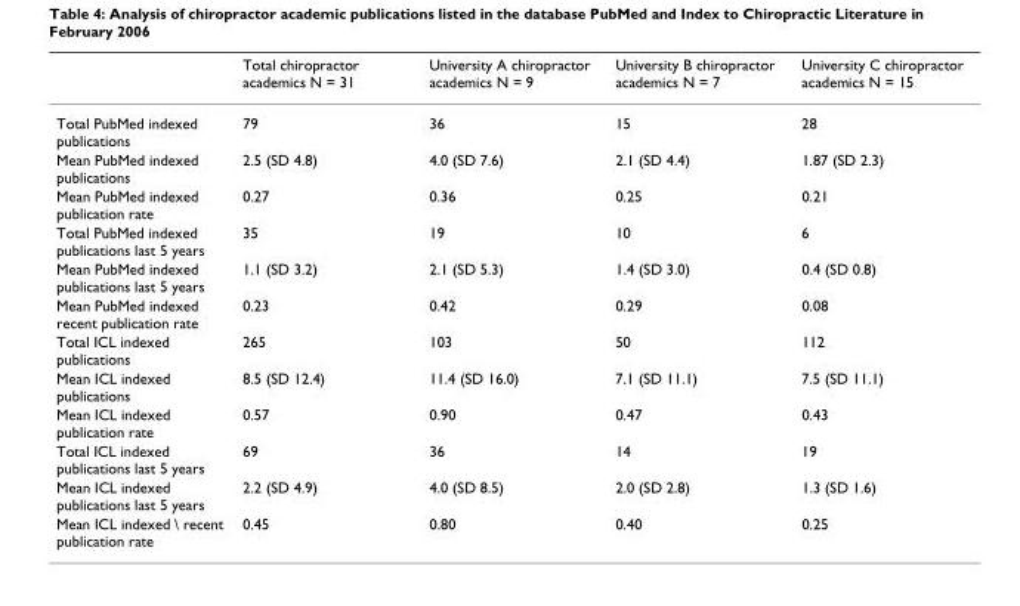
<table><thead><tr><td></td><td>Total chiropractor academics N = 31</td><td>University A chiropractor academics N = 9</td><td>University B chiropractor academics N = 7</td><td>University C chiropractor academics N = 15</td></tr></thead><tbody><tr><td>Total PubMed indexed publications</td><td>79</td><td>36</td><td>15</td><td>28</td></tr><tr><td>Mean PubMed indexed publications</td><td>2.5 (SD 4.8)</td><td>4.0 (SD 7.6)</td><td>2.1 (SD 4.4)</td><td>1.87 (SD 2.3)</td></tr><tr><td>Mean PubMed indexed publication rate</td><td>0.27</td><td>0.36</td><td>0.25</td><td>0.21</td></tr><tr><td>Total PubMed indexed publications last 5 years</td><td>35</td><td>19</td><td>10</td><td>6</td></tr><tr><td>Mean PubMed indexed publications last 5 years</td><td>1.1 (SD 3.2)</td><td>2.1 (SD 5.3)</td><td>1.4 (SD 3.0)</td><td>0.4 (SD 0.8)</td></tr><tr><td>Mean PubMed indexed recent publication rate</td><td>0.23</td><td>0.42</td><td>0.29</td><td>0.08</td></tr><tr><td>Total ICL indexed publications</td><td>265</td><td>103</td><td>50</td><td>112</td></tr><tr><td>Mean ICL indexed publications</td><td>8.5 (SD 12.4)</td><td>11.4 (SD 16.0)</td><td>7.1 (SD 11.1)</td><td>7.5 (SD 11.1)</td></tr><tr><td>Mean ICL indexed publication rate</td><td>0.57</td><td>0.90</td><td>0.47</td><td>0.43</td></tr><tr><td>Total ICL indexed publications last 5 years</td><td>69</td><td>36</td><td>14</td><td>19</td></tr><tr><td>Mean ICL indexed publications last 5 years</td><td>2.2 (SD 4.9)</td><td>4.0 (SD 8.5)</td><td>2.0 (SD 2.8)</td><td>1.3 (SD 1.6)</td></tr><tr><td>Mean ICL indexed \ recent publication rate</td><td>0.45</td><td>0.80</td><td>0.40</td><td>0.25</td></tr></tbody></table>